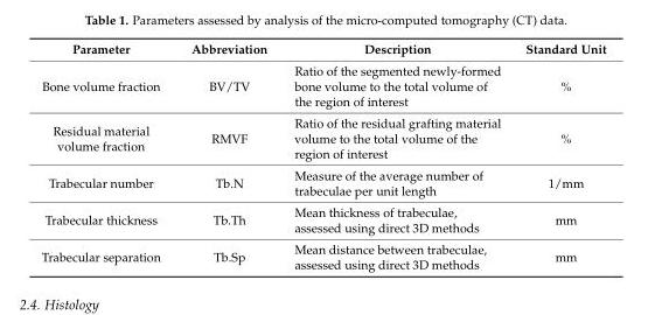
<table><thead><tr><td>Parameter</td><td>Abbreviation</td><td>Description</td><td>Standard Unit</td></tr></thead><tbody><tr><td>Bone volume fraction</td><td>BV/TV</td><td>Ratio of the segmented newly-formed bone volume to the total volume of the region of interest</td><td>%</td></tr><tr><td>Residual material volume fraction</td><td>RMVF</td><td>Ratio of the residual grafting material volume to the total volume of the region of interest</td><td>%</td></tr><tr><td>Trabecular number</td><td>Tb.N</td><td>Measure of the average number of trabeculae per unit length</td><td>1/mm</td></tr><tr><td>Trabecular thickness</td><td>Tb.Th</td><td>Mean thickness of trabeculae, assessed using direct 3D methods</td><td>mm</td></tr><tr><td>Trabecular separation</td><td>Tb.Sp</td><td>Mean distance between trabeculae, assessed using direct 3D methods</td><td>mm</td></tr></tbody></table>